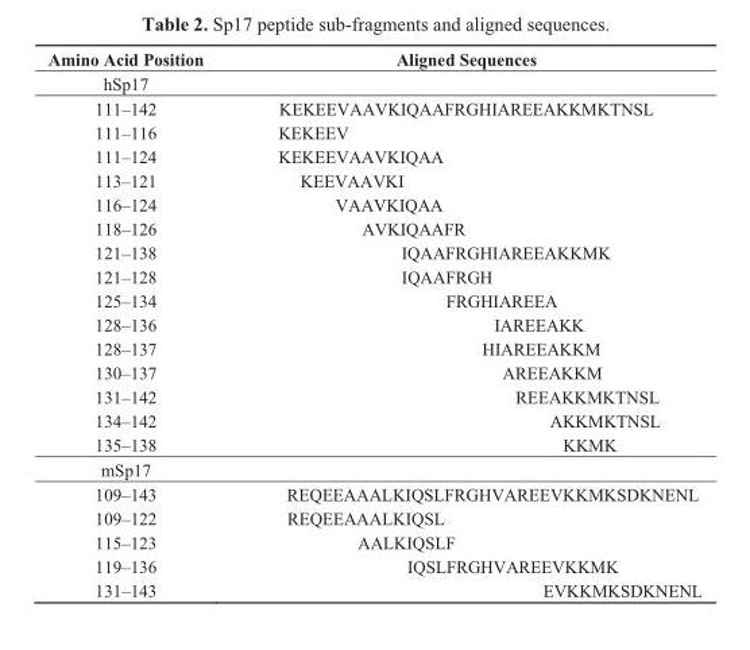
<table><thead><tr><td>Amino Acid Position</td><td>Aligned Sequences</td></tr></thead><tbody><tr><td colspan="2">hSp17</td></tr><tr><td>111–142</td><td>KEKEEVAAVKIQAAFRGHIAREEAKKMKTNSL</td></tr><tr><td>111–116</td><td>KEKEEV</td></tr><tr><td>111–124</td><td>KEKEEVAAVKIQAA</td></tr><tr><td>113–121</td><td>KEEVAAVKI</td></tr><tr><td>116–124</td><td>VAAVKIQAA</td></tr><tr><td>118–126</td><td>AVKIQAAFR</td></tr><tr><td>121–138</td><td>IQAAFRGHIAREEAKKMK</td></tr><tr><td>121–128</td><td>IQAAFRGH</td></tr><tr><td>125–134</td><td>FRGHIAREEA</td></tr><tr><td>128–136</td><td>IAREEAKK</td></tr><tr><td>128–137</td><td>HIAREEAKKM</td></tr><tr><td>130–137</td><td>AREEAKKM</td></tr><tr><td>131–142</td><td>REEAKKMKTNSL</td></tr><tr><td>134–142</td><td>AKKMKTNSL</td></tr><tr><td>135–138</td><td>KKMK</td></tr><tr><td colspan="2">mSp17</td></tr><tr><td>109–143</td><td>REQEEAAALKIQSLFRGHVAREEVKKMKSDKNENL</td></tr><tr><td>109–122</td><td>REQEEAAALKIQSL</td></tr><tr><td>115–123</td><td>AALKIQSLF</td></tr><tr><td>119–136</td><td>IQSLFRGHVAREEVKKMK</td></tr><tr><td>131–143</td><td>EVKKMKSDKNENL</td></tr></tbody></table>